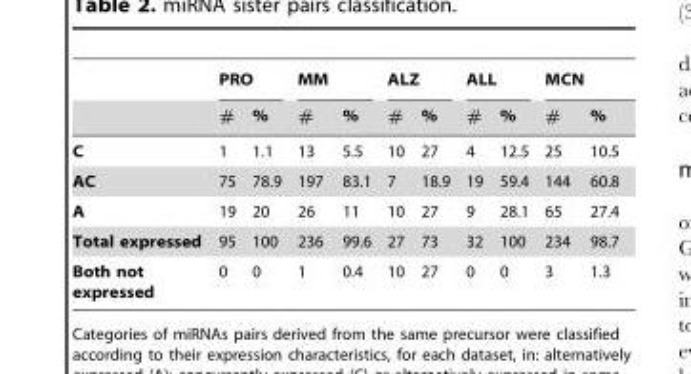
<table><thead><tr><td rowspan="2"></td><td colspan="2">PRO</td><td colspan="2">MM</td><td colspan="2">ALZ</td><td colspan="2">ALL</td><td colspan="2">MCN</td></tr><tr><td>#</td><td>%</td><td>#</td><td>%</td><td>#</td><td>%</td><td>#</td><td>%</td><td>#</td><td>%</td></tr></thead><tbody><tr><td>C</td><td>1</td><td>1.1</td><td>13</td><td>5.5</td><td>10</td><td>27</td><td>4</td><td>12.5</td><td>25</td><td>10.5</td></tr><tr><td>AC</td><td>75</td><td>78.9</td><td>197</td><td>83.1</td><td>7</td><td>18.9</td><td>19</td><td>59.4</td><td>144</td><td>60.8</td></tr><tr><td>A</td><td>19</td><td>20</td><td>26</td><td>11</td><td>10</td><td>27</td><td>9</td><td>28.1</td><td>65</td><td>27.4</td></tr><tr><td>Total expressed</td><td>95</td><td>100</td><td>236</td><td>99.6</td><td>27</td><td>73</td><td>32</td><td>100</td><td>234</td><td>98.7</td></tr><tr><td>Both not expressed</td><td>0</td><td>0</td><td>1</td><td>0.4</td><td>10</td><td>27</td><td>0</td><td>0</td><td>3</td><td>1.3</td></tr></tbody></table>